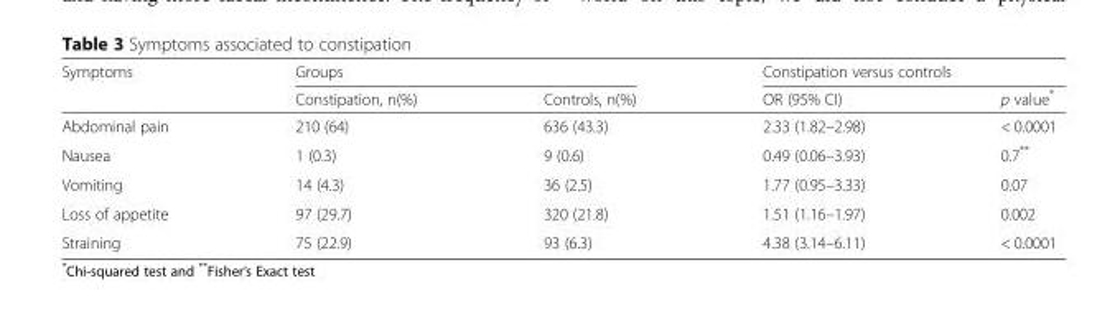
<table><thead><tr><td rowspan="2">Symptoms</td><td colspan="2">Groups</td><td colspan="2">Constipation versus controls</td></tr><tr><td>Constipation, n(%)</td><td>Controls, n(%)</td><td>OR (95% CI)</td><td>p value*</td></tr></thead><tbody><tr><td>Abdominal pain</td><td>210 (64)</td><td>636 (43.3)</td><td>2.33 (1.82–2.98)</td><td>&lt; 0.0001</td></tr><tr><td>Nausea</td><td>1 (0.3)</td><td>9 (0.6)</td><td>0.49 (0.06–3.93)</td><td>0.7**</td></tr><tr><td>Vomiting</td><td>14 (4.3)</td><td>36 (2.5)</td><td>1.77 (0.95–3.33)</td><td>0.07</td></tr><tr><td>Loss of appetite</td><td>97 (29.7)</td><td>320 (21.8)</td><td>1.51 (1.16–1.97)</td><td>0.002</td></tr><tr><td>Straining</td><td>75 (22.9)</td><td>93 (6.3)</td><td>4.38 (3.14–6.11)</td><td>&lt; 0.0001</td></tr></tbody></table>